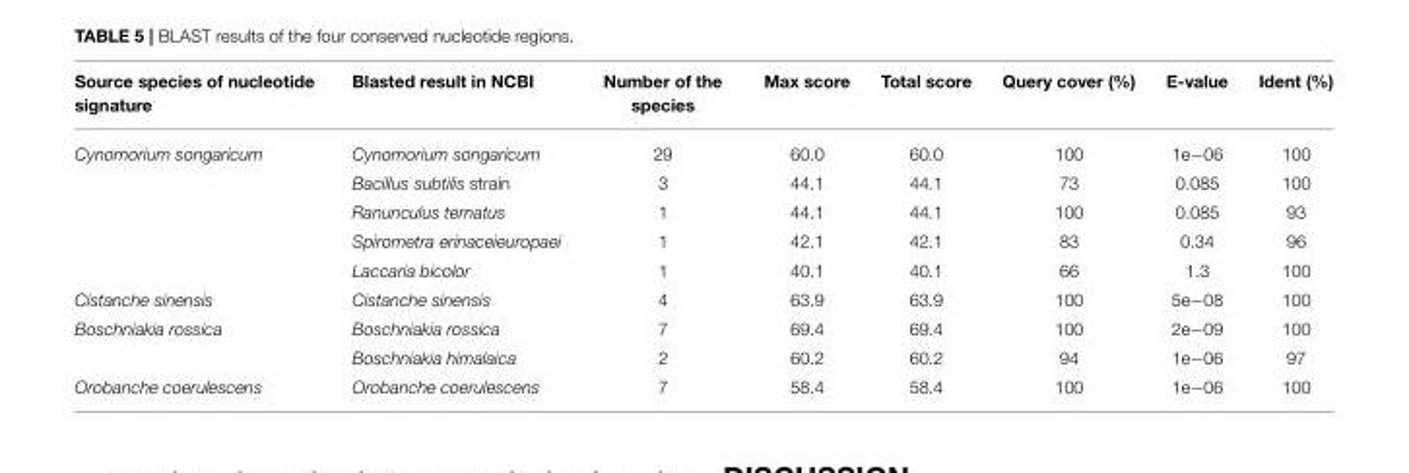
<table><thead><tr><td>Source species of nucleotide signature</td><td>Blasted result in NCBI</td><td>Number of the species</td><td>Max score</td><td>Total score</td><td>Query cover (%)</td><td>E-value</td><td>Ident (%)</td></tr></thead><tbody><tr><td rowspan="5">Cynomorium songaricum</td><td>Cynomorium songaricum</td><td>29</td><td>60.0</td><td>60.0</td><td>100</td><td>1e−06</td><td>100</td></tr><tr><td>Bacillus subtilis strain</td><td>3</td><td>44.1</td><td>44.1</td><td>73</td><td>0.085</td><td>100</td></tr><tr><td>Ranunculus ternatus</td><td>1</td><td>44.1</td><td>44.1</td><td>100</td><td>0.085</td><td>93</td></tr><tr><td>Spirometra erinaceieuropaei</td><td>1</td><td>42.1</td><td>42.1</td><td>83</td><td>0.34</td><td>96</td></tr><tr><td>Laccaria bicolor</td><td>1</td><td>40.1</td><td>40.1</td><td>66</td><td>1.3</td><td>100</td></tr><tr><td>Cistanche sinensis</td><td>Cistanche sinensis</td><td>4</td><td>63.9</td><td>63.9</td><td>100</td><td>5e−08</td><td>100</td></tr><tr><td rowspan="2">Boschniakia rossica</td><td>Boschniakia rossica</td><td>7</td><td>69.4</td><td>69.4</td><td>100</td><td>2e−09</td><td>100</td></tr><tr><td>Boschniakia himalaica</td><td>2</td><td>60.2</td><td>60.2</td><td>94</td><td>1e−06</td><td>97</td></tr><tr><td>Orobanche coerulescens</td><td>Orobanche coerulescens</td><td>7</td><td>58.4</td><td>58.4</td><td>100</td><td>1e−06</td><td>100</td></tr></tbody></table>